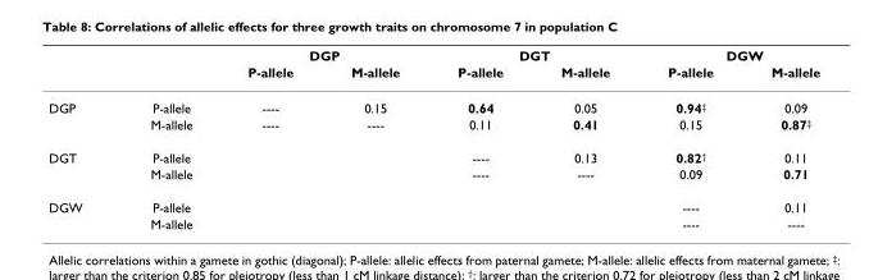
<table><thead><tr><td rowspan="2"></td><td rowspan="2"></td><td colspan="2">DGP</td><td colspan="2">DGT</td><td colspan="2">DGW</td></tr><tr><td>P-allele</td><td>M-allele</td><td>P-allele</td><td>M-allele</td><td>P-allele</td><td>M-allele</td></tr></thead><tbody><tr><td rowspan="2">DGP</td><td>P-allele</td><td>----</td><td>0.15</td><td>0.64</td><td>0.05</td><td>0.94<sup>‡</sup></td><td>0.09</td></tr><tr><td>M-allele</td><td>----</td><td>----</td><td>0.11</td><td>0.41</td><td>0.15</td><td>0.87<sup>‡</sup></td></tr><tr><td rowspan="2">DGT</td><td>P-allele</td><td></td><td></td><td>----</td><td>0.13</td><td>0.82<sup>†</sup></td><td>0.11</td></tr><tr><td>M-allele</td><td></td><td></td><td>----</td><td>----</td><td>0.09</td><td>0.71</td></tr><tr><td rowspan="2">DGW</td><td>P-allele</td><td></td><td></td><td></td><td></td><td>----</td><td>0.11</td></tr><tr><td>M-allele</td><td></td><td></td><td></td><td></td><td>----</td><td>----</td></tr></tbody></table>